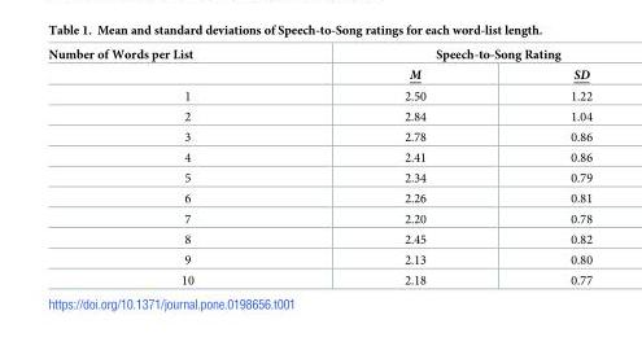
<table><thead><tr><td rowspan="2">Number of Words per List</td><td colspan="2">Speech-to-Song Rating</td></tr><tr><td>M</td><td>SD</td></tr></thead><tbody><tr><td>1</td><td>2.50</td><td>1.22</td></tr><tr><td>2</td><td>2.84</td><td>1.04</td></tr><tr><td>3</td><td>2.78</td><td>0.86</td></tr><tr><td>4</td><td>2.41</td><td>0.86</td></tr><tr><td>5</td><td>2.34</td><td>0.79</td></tr><tr><td>6</td><td>2.26</td><td>0.81</td></tr><tr><td>7</td><td>2.20</td><td>0.78</td></tr><tr><td>8</td><td>2.45</td><td>0.82</td></tr><tr><td>9</td><td>2.13</td><td>0.80</td></tr><tr><td>10</td><td>2.18</td><td>0.77</td></tr></tbody></table>